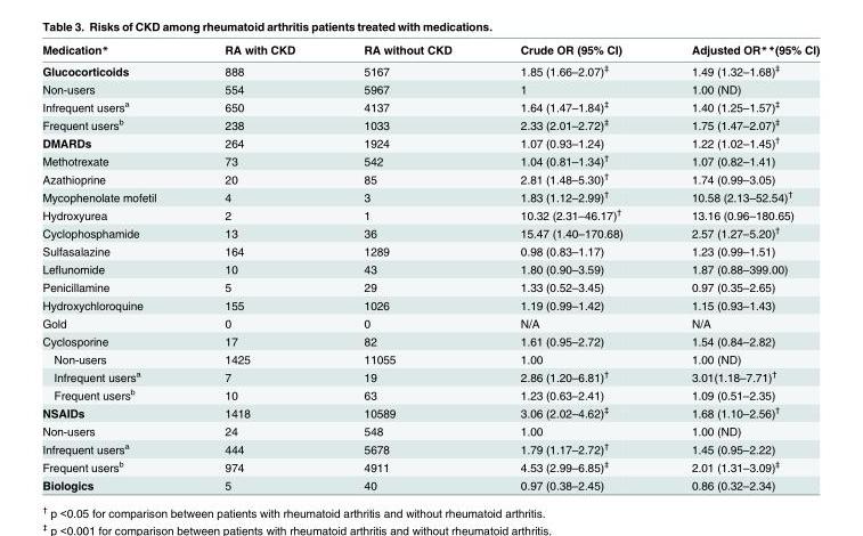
<table><thead><tr><td>Medication*</td><td>RA with CKD</td><td>RA without CKD</td><td>Crude OR (95% CI)</td><td>Adjusted OR**(95% CI)</td></tr></thead><tbody><tr><td>Glucocorticoids</td><td>888</td><td>5167</td><td>1.85 (1.66–2.07)<sup>‡</sup></td><td>1.49 (1.32–1.68)<sup>‡</sup></td></tr><tr><td>Non-users</td><td>554</td><td>5967</td><td>1</td><td>1.00 (ND)</td></tr><tr><td>Infrequent users<sup>a</sup></td><td>650</td><td>4137</td><td>1.64 (1.47–1.84)<sup>‡</sup></td><td>1.40 (1.25–1.57)<sup>‡</sup></td></tr><tr><td>Frequent users<sup>b</sup></td><td>238</td><td>1033</td><td>2.33 (2.01–2.72)<sup>‡</sup></td><td>1.75 (1.47–2.07)<sup>‡</sup></td></tr><tr><td>DMARDs</td><td>264</td><td>1924</td><td>1.07 (0.93–1.24)</td><td>1.22 (1.02–1.45)<sup>†</sup></td></tr><tr><td>Methotrexate</td><td>73</td><td>542</td><td>1.04 (0.81–1.34)<sup>†</sup></td><td>1.07 (0.82–1.41)</td></tr><tr><td>Azathioprine</td><td>20</td><td>85</td><td>2.81 (1.48–5.30)<sup>†</sup></td><td>1.74 (0.99–3.05)</td></tr><tr><td>Mycophenolate mofetil</td><td>4</td><td>3</td><td>1.83 (1.12–2.99)<sup>†</sup></td><td>10.58 (2.13–52.54)<sup>†</sup></td></tr><tr><td>Hydroxyurea</td><td>2</td><td>1</td><td>10.32 (2.31–46.17)<sup>†</sup></td><td>13.16 (0.96–180.65)</td></tr><tr><td>Cyclophosphamide</td><td>13</td><td>36</td><td>15.47 (1.40–170.68)</td><td>2.57 (1.27–5.20)<sup>†</sup></td></tr><tr><td>Sulfasalazine</td><td>164</td><td>1289</td><td>0.98 (0.83–1.17)</td><td>1.23 (0.99–1.51)</td></tr><tr><td>Leflunomide</td><td>10</td><td>43</td><td>1.80 (0.90–3.59)</td><td>1.87 (0.88–399.00)</td></tr><tr><td>Penicillamine</td><td>5</td><td>29</td><td>1.33 (0.52–3.45)</td><td>0.97 (0.35–2.65)</td></tr><tr><td>Hydroxychloroquine</td><td>155</td><td>1026</td><td>1.19 (0.99–1.42)</td><td>1.15 (0.93–1.43)</td></tr><tr><td>Gold</td><td>0</td><td>0</td><td>N/A</td><td>N/A</td></tr><tr><td>Cyclosporine</td><td>17</td><td>82</td><td>1.61 (0.95–2.72)</td><td>1.54 (0.84–2.82)</td></tr><tr><td>Non-users</td><td>1425</td><td>11055</td><td>1.00</td><td>1.00 (ND)</td></tr><tr><td>Infrequent users<sup>a</sup></td><td>7</td><td>19</td><td>2.86 (1.20–6.81)<sup>†</sup></td><td>3.01(1.18–7.71)<sup>†</sup></td></tr><tr><td>Frequent users<sup>b</sup></td><td>10</td><td>63</td><td>1.23 (0.63–2.41)</td><td>1.09 (0.51–2.35)</td></tr><tr><td>NSAIDs</td><td>1418</td><td>10589</td><td>3.06 (2.02–4.62)<sup>‡</sup></td><td>1.68 (1.10–2.56)<sup>†</sup></td></tr><tr><td>Non-users</td><td>24</td><td>548</td><td>1.00</td><td>1.00 (ND)</td></tr><tr><td>Infrequent users<sup>a</sup></td><td>444</td><td>5678</td><td>1.79 (1.17–2.72)<sup>†</sup></td><td>1.45 (0.95–2.22)</td></tr><tr><td>Frequent users<sup>b</sup></td><td>974</td><td>4911</td><td>4.53 (2.99–6.85)<sup>‡</sup></td><td>2.01 (1.31–3.09)<sup>‡</sup></td></tr><tr><td>Biologics</td><td>5</td><td>40</td><td>0.97 (0.38–2.45)</td><td>0.86 (0.32–2.34)</td></tr></tbody></table>